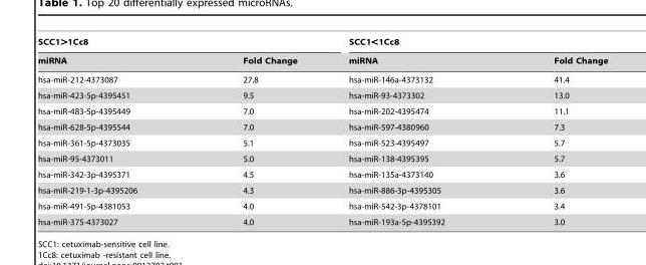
<table><thead><tr><td colspan="2">SCC1&gt;1Cc8</td><td colspan="2">SCC1&lt;1Cc8</td></tr><tr><td>miRNA</td><td>Fold Change</td><td>miRNA</td><td>Fold Change</td></tr></thead><tbody><tr><td>hsa-miR-212-4373087</td><td>27.8</td><td>hsa-miR-146a-4373132</td><td>41.4</td></tr><tr><td>hsa-miR-423-5p-4395451</td><td>9.5</td><td>hsa-miR-93-4373302</td><td>13.0</td></tr><tr><td>hsa-miR-483-5p-4395449</td><td>7.0</td><td>hsa-miR-202-4395474</td><td>11.1</td></tr><tr><td>hsa-miR-628-5p-4395544</td><td>7.0</td><td>hsa-miR-597-4380960</td><td>7.3</td></tr><tr><td>hsa-miR-361-5p-4373035</td><td>5.1</td><td>hsa-miR-523-4395497</td><td>5.7</td></tr><tr><td>hsa-miR-95-4373011</td><td>5.0</td><td>hsa-miR-138-4395395</td><td>5.7</td></tr><tr><td>hsa-miR-342-3p-4395371</td><td>4.5</td><td>hsa-miR-135a-4373140</td><td>3.6</td></tr><tr><td>hsa-miR-219-1-3p-4395206</td><td>4.3</td><td>hsa-miR-886-3p-4395305</td><td>3.6</td></tr><tr><td>hsa-miR-491-5p-4381053</td><td>4.0</td><td>hsa-miR-542-3p-4378101</td><td>3.4</td></tr><tr><td>hsa-miR-375-4373027</td><td>4.0</td><td>hsa-miR-193a-5p-4395392</td><td>3.0</td></tr></tbody></table>